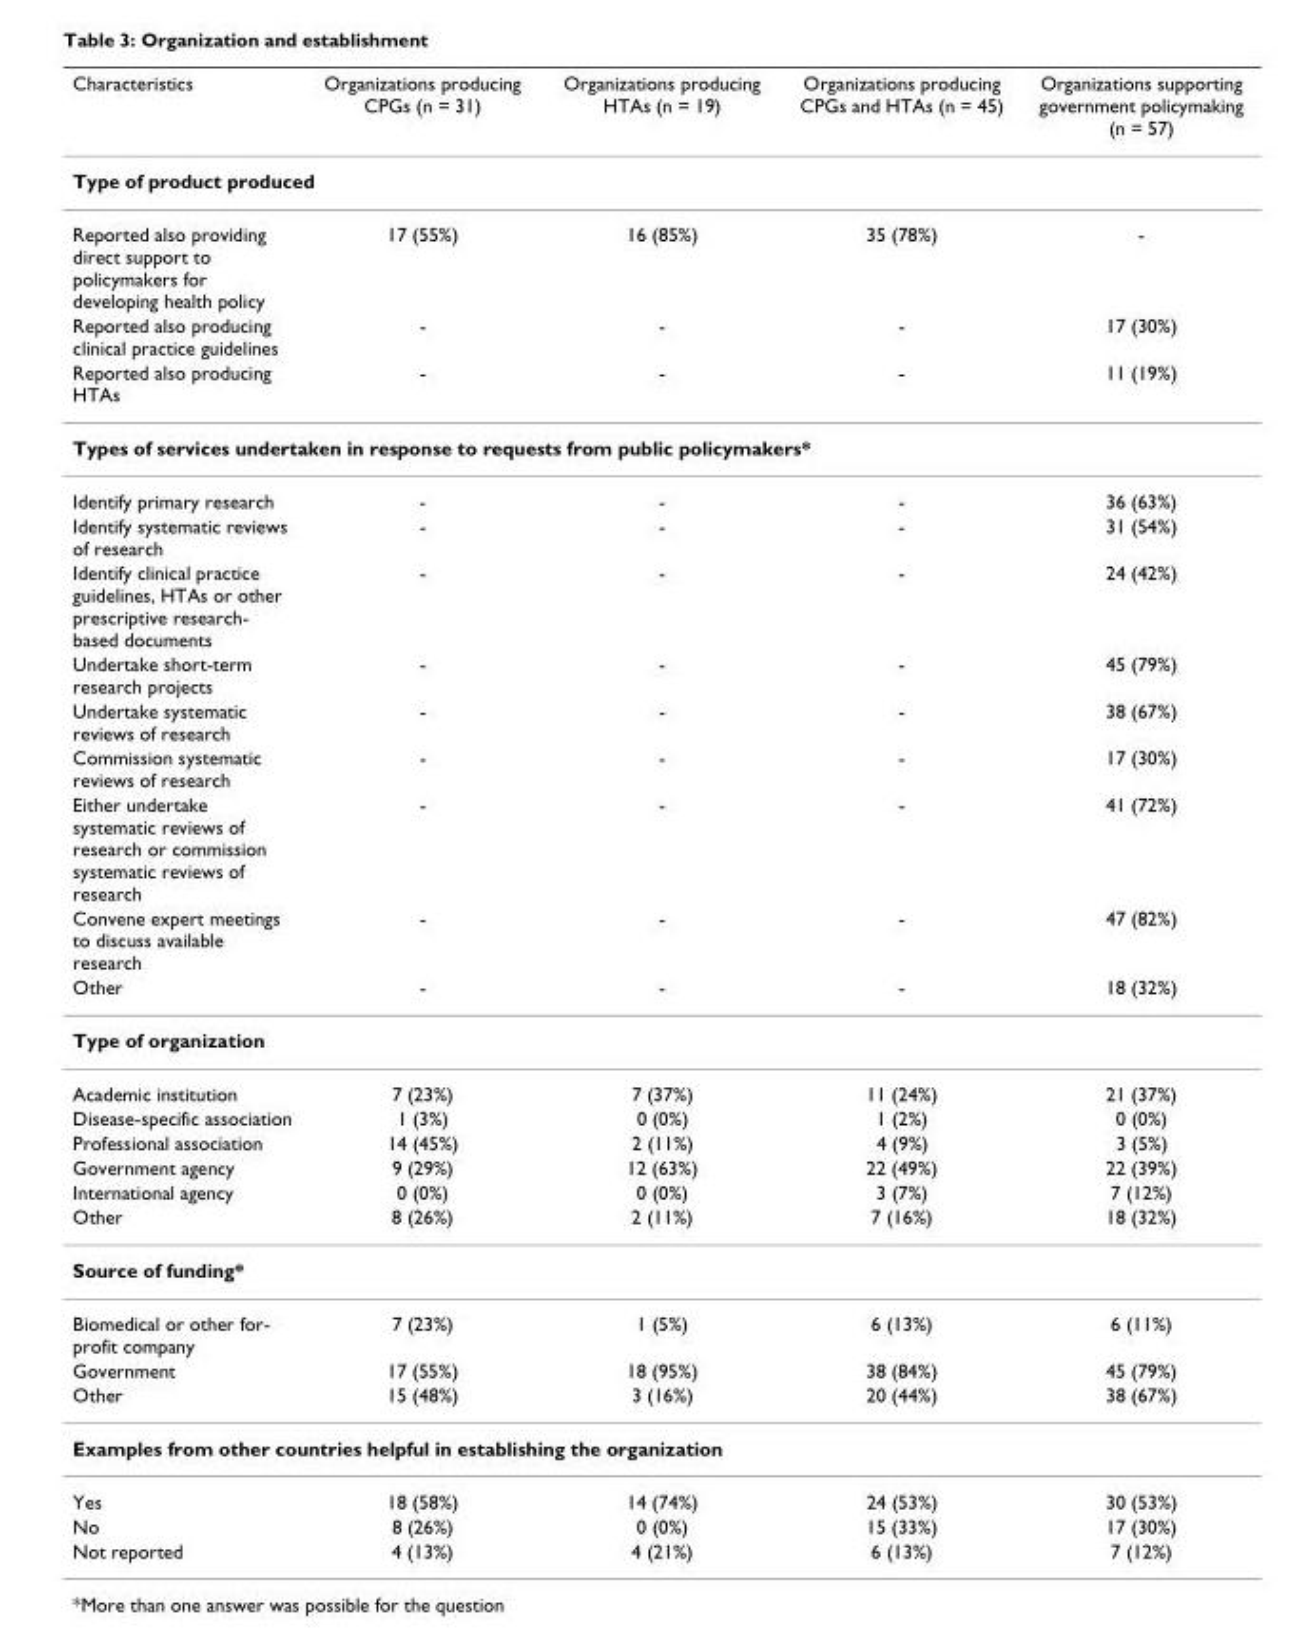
<table><thead><tr><td>Characteristics</td><td>Organizations producing CPGs (n = 31)</td><td>Organizations producing HTAs (n = 19)</td><td>Organizations producing CPGs and HTAs (n = 45)</td><td>Organizations supporting government policymaking (n = 57)</td></tr></thead><tbody><tr><td colspan="5">Type of product produced</td></tr><tr><td>Reported also providing direct support to policymakers for developing health policy</td><td>17 (55%)</td><td>16 (85%)</td><td>35 (78%)</td><td>-</td></tr><tr><td>Reported also producing clinical practice guidelines</td><td>-</td><td>-</td><td>-</td><td>17 (30%)</td></tr><tr><td>Reported also producing HTAs</td><td>-</td><td>-</td><td>-</td><td>11 (19%)</td></tr><tr><td colspan="5">Types of services undertaken in response to requests from public policymakers*</td></tr><tr><td>Identify primary research</td><td>-</td><td>-</td><td>-</td><td>36 (63%)</td></tr><tr><td>Identify systematic reviews of research</td><td>-</td><td>-</td><td>-</td><td>31 (54%)</td></tr><tr><td>Identify clinical practice guidelines, HTAs or other prescriptive research- based documents</td><td>-</td><td>-</td><td>-</td><td>24 (42%)</td></tr><tr><td>Undertake short-term research projects</td><td>-</td><td>-</td><td>-</td><td>45 (79%)</td></tr><tr><td>Undertake systematic reviews of research</td><td>-</td><td>-</td><td>-</td><td>38 (67%)</td></tr><tr><td>Commission systematic reviews of research</td><td>-</td><td>-</td><td>-</td><td>17 (30%)</td></tr><tr><td>Either undertake systematic reviews of research or commission systematic reviews of research</td><td>-</td><td>-</td><td>-</td><td>41 (72%)</td></tr><tr><td>Convene expert meetings to discuss available research</td><td>-</td><td>-</td><td>-</td><td>47 (82%)</td></tr><tr><td>Other</td><td>-</td><td>-</td><td>-</td><td>18 (32%)</td></tr><tr><td colspan="5">Type of organization</td></tr><tr><td>Academic institution</td><td>7 (23%)</td><td>7 (37%)</td><td>11 (24%)</td><td>21 (37%)</td></tr><tr><td>Disease-specific association</td><td>1 (3%)</td><td>0 (0%)</td><td>1 (2%)</td><td>0 (0%)</td></tr><tr><td>Professional association</td><td>14 (45%)</td><td>2 (11%)</td><td>4 (9%)</td><td>3 (5%)</td></tr><tr><td>Government agency</td><td>9 (29%)</td><td>12 (63%)</td><td>22 (49%)</td><td>22 (39%)</td></tr><tr><td>International agency</td><td>0 (0%)</td><td>0 (0%)</td><td>3 (7%)</td><td>7 (12%)</td></tr><tr><td>Other</td><td>8 (26%)</td><td>2 (11%)</td><td>7 (16%)</td><td>18 (32%)</td></tr><tr><td colspan="5">Source of funding*</td></tr><tr><td>Biomedical or other for- profit company</td><td>7 (23%)</td><td>1 (5%)</td><td>6 (13%)</td><td>6 (11%)</td></tr><tr><td>Government</td><td>17 (55%)</td><td>18 (95%)</td><td>38 (84%)</td><td>45 (79%)</td></tr><tr><td>Other</td><td>15 (48%)</td><td>3 (16%)</td><td>20 (44%)</td><td>38 (67%)</td></tr><tr><td colspan="5">Examples from other countries helpful in establishing the organization</td></tr><tr><td>Yes</td><td>18 (58%)</td><td>14 (74%)</td><td>24 (53%)</td><td>30 (53%)</td></tr><tr><td>No</td><td>8 (26%)</td><td>0 (0%)</td><td>15 (33%)</td><td>17 (30%)</td></tr><tr><td>Not reported</td><td>4 (13%)</td><td>4 (21%)</td><td>6 (13%)</td><td>7 (12%)</td></tr></tbody></table>